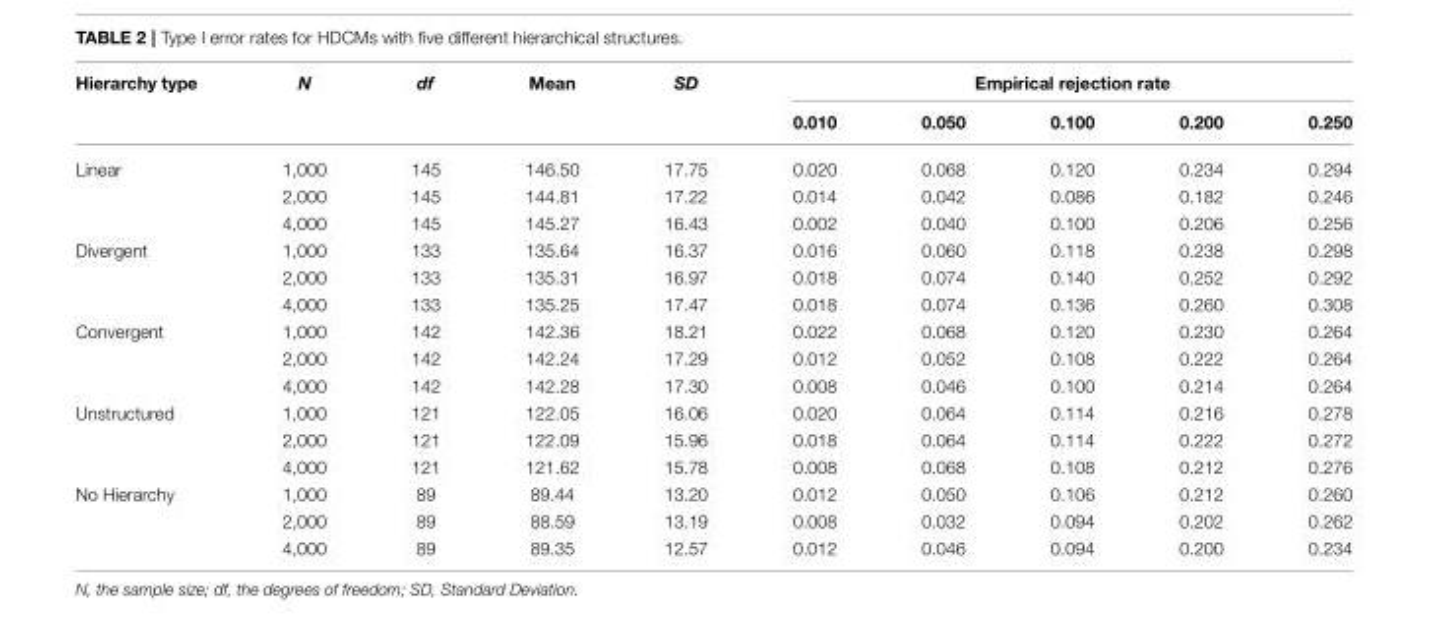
<table><thead><tr><td rowspan="2">Hierarchy type</td><td rowspan="2">N</td><td rowspan="2">df</td><td rowspan="2">Mean</td><td rowspan="2">SD</td><td colspan="5">Empirical rejection rate</td></tr><tr><td>0.010</td><td>0.050</td><td>0.100</td><td>0.200</td><td>0.250</td></tr></thead><tbody><tr><td rowspan="3">Linear</td><td>1,000</td><td>145</td><td>146.50</td><td>17.75</td><td>0.020</td><td>0.068</td><td>0.120</td><td>0.234</td><td>0.294</td></tr><tr><td>2,000</td><td>145</td><td>144.81</td><td>17.22</td><td>0.014</td><td>0.042</td><td>0.086</td><td>0.182</td><td>0.246</td></tr><tr><td>4,000</td><td>145</td><td>145.27</td><td>16.43</td><td>0.002</td><td>0.040</td><td>0.100</td><td>0.206</td><td>0.256</td></tr><tr><td rowspan="3">Divergent</td><td>1,000</td><td>133</td><td>135.64</td><td>16.37</td><td>0.016</td><td>0.060</td><td>0.118</td><td>0.238</td><td>0.298</td></tr><tr><td>2,000</td><td>133</td><td>135.31</td><td>16.97</td><td>0.018</td><td>0.074</td><td>0.140</td><td>0.252</td><td>0.292</td></tr><tr><td>4,000</td><td>133</td><td>135.25</td><td>17.47</td><td>0.018</td><td>0.074</td><td>0.136</td><td>0.260</td><td>0.308</td></tr><tr><td rowspan="3">Convergent</td><td>1,000</td><td>142</td><td>142.36</td><td>18.21</td><td>0.022</td><td>0.068</td><td>0.120</td><td>0.230</td><td>0.264</td></tr><tr><td>2,000</td><td>142</td><td>142.24</td><td>17.29</td><td>0.012</td><td>0.052</td><td>0.108</td><td>0.222</td><td>0.264</td></tr><tr><td>4,000</td><td>142</td><td>142.28</td><td>17.30</td><td>0.008</td><td>0.046</td><td>0.100</td><td>0.214</td><td>0.264</td></tr><tr><td rowspan="3">Unstructured</td><td>1,000</td><td>121</td><td>122.05</td><td>16.06</td><td>0.020</td><td>0.064</td><td>0.114</td><td>0.216</td><td>0.278</td></tr><tr><td>2,000</td><td>121</td><td>122.09</td><td>15.96</td><td>0.018</td><td>0.064</td><td>0.114</td><td>0.222</td><td>0.272</td></tr><tr><td>4,000</td><td>121</td><td>121.62</td><td>15.78</td><td>0.008</td><td>0.068</td><td>0.108</td><td>0.212</td><td>0.276</td></tr><tr><td rowspan="3">No Hierarchy</td><td>1,000</td><td>89</td><td>89.44</td><td>13.20</td><td>0.012</td><td>0.050</td><td>0.106</td><td>0.212</td><td>0.260</td></tr><tr><td>2,000</td><td>89</td><td>88.59</td><td>13.19</td><td>0.008</td><td>0.032</td><td>0.094</td><td>0.202</td><td>0.262</td></tr><tr><td>4,000</td><td>89</td><td>89.35</td><td>12.57</td><td>0.012</td><td>0.046</td><td>0.094</td><td>0.200</td><td>0.234</td></tr></tbody></table>